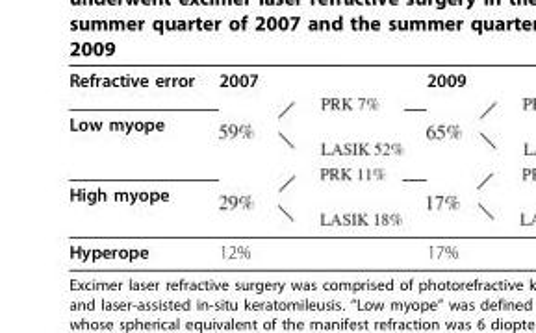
<table><thead><tr><td>Refractive error</td><td>2007</td><td>2009</td></tr></thead><tbody><tr><td colspan="3">Low myope</td></tr><tr><td colspan="3">High myope</td></tr><tr><td>Hyperope</td><td>12%</td><td>17%</td></tr></tbody></table>